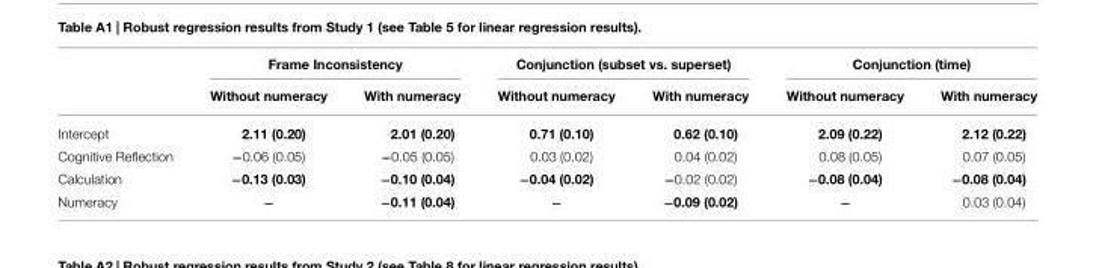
<table><thead><tr><td rowspan="2"></td><td colspan="2">Frame Inconsistency</td><td colspan="2">Conjunction (subset vs. superset)</td><td colspan="2">Conjunction (time)</td></tr><tr><td>Without numeracy</td><td>With numeracy</td><td>Without numeracy</td><td>With numeracy</td><td>Without numeracy</td><td>With numeracy</td></tr></thead><tbody><tr><td>Intercept</td><td>2.11 (0.20)</td><td>2.01 (0.20)</td><td>0.71 (0.10)</td><td>0.62 (0.10)</td><td>2.09 (0.22)</td><td>2.12 (0.22)</td></tr><tr><td>Cognitive Reflection</td><td>−0.06 (0.05)</td><td>−0.05 (0.05)</td><td>0.03 (0.02)</td><td>0.04 (0.02)</td><td>0.08 (0.05)</td><td>0.07 (0.05)</td></tr><tr><td>Calculation</td><td>−0.13 (0.03)</td><td>−0.10 (0.04)</td><td>−0.04 (0.02)</td><td>−0.02 (0.02)</td><td>−0.08 (0.04)</td><td>−0.08 (0.04)</td></tr><tr><td>Numeracy</td><td>−</td><td>−0.11 (0.04)</td><td>−</td><td>−0.09 (0.02)</td><td>−</td><td>0.03 (0.04)</td></tr></tbody></table>